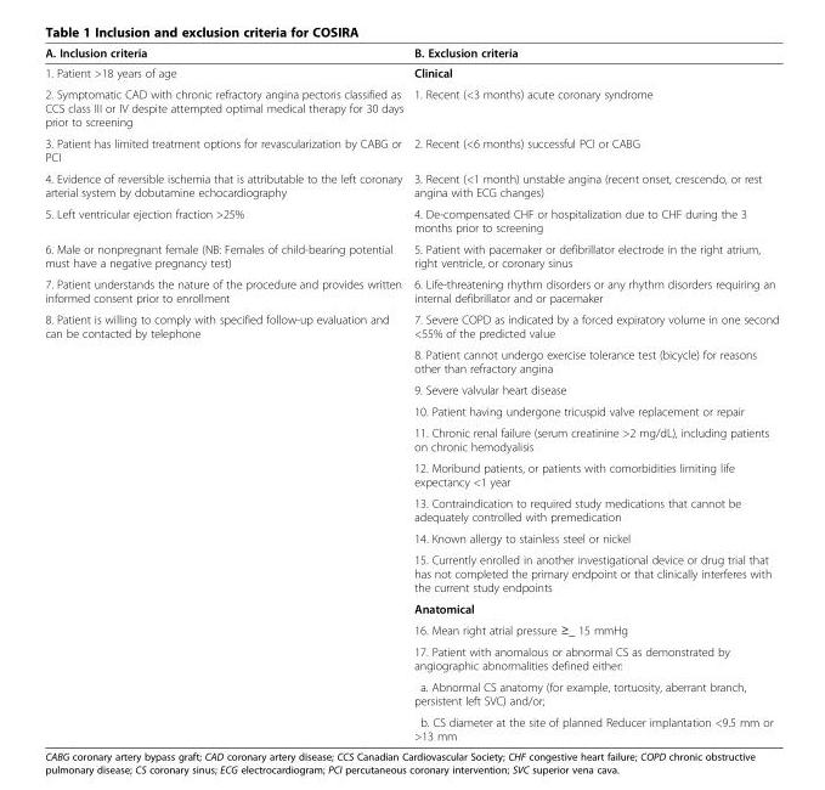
<table><thead><tr><td>A. Inclusion criteria</td><td>B. Exclusion criteria</td></tr></thead><tbody><tr><td>1. Patient &gt;18 years of age</td><td>Clinical</td></tr><tr><td>2. Symptomatic CAD with chronic refractory angina pectoris classified as CCS class III or IV despite attempted optimal medical therapy for 30 days prior to screening</td><td>1. Recent (&lt;3 months) acute coronary syndrome</td></tr><tr><td>3. Patient has limited treatment options for revascularization by CABG or PCI</td><td>2. Recent (&lt;6 months) successful PCI or CABG</td></tr><tr><td>4. Evidence of reversible ischemia that is attributable to the left coronary arterial system by dobutamine echocardiography</td><td>3. Recent (&lt;1 month) unstable angina (recent onset, crescendo, or rest angina with ECG changes)</td></tr><tr><td>5. Left ventricular ejection fraction &gt;25%</td><td>4. De-compensated CHF or hospitalization due to CHF during the 3 months prior to screening</td></tr><tr><td>6. Male or nonpregnant female (NB: Females of child-bearing potential must have a negative pregnancy test)</td><td>5. Patient with pacemaker or defibrillator electrode in the right atrium, right ventricle, or coronary sinus</td></tr><tr><td>7. Patient understands the nature of the procedure and provides written informed consent prior to enrollment</td><td>6. Life-threatening rhythm disorders or any rhythm disorders requiring an internal defibrillator and or pacemaker</td></tr><tr><td rowspan="14">8. Patient is willing to comply with specified follow-up evaluation and can be contacted by telephone</td><td>7. Severe COPD as indicated by a forced expiratory volume in one second &lt;55% of the predicted value</td></tr><tr><td>8. Patient cannot undergo exercise tolerance test (bicycle) for reasons other than refractory angina</td></tr><tr><td>9. Severe valvular heart disease</td></tr><tr><td>10. Patient having undergone tricuspid valve replacement or repair</td></tr><tr><td>11. Chronic renal failure (serum creatinine &gt;2 mg/dL), including patients on chronic hemodyalisis</td></tr><tr><td>12. Moribund patients, or patients with comorbidities limiting life expectancy &lt;1 year</td></tr><tr><td>13. Contraindication to required study medications that cannot be adequately controlled with premedication</td></tr><tr><td>14. Known allergy to stainless steel or nickel</td></tr><tr><td>15. Currently enrolled in another investigational device or drug trial that has not completed the primary endpoint or that clinically interferes with the current study endpoints</td></tr><tr><td>Anatomical</td></tr><tr><td>16. Mean right atrial pressure ≥_ 15 mmHg</td></tr><tr><td>17. Patient with anomalous or abnormal CS as demonstrated by angiographic abnormalities defined either:</td></tr><tr><td>a. Abnormal CS anatomy (for example, tortuosity, aberrant branch, persistent left SVC) and/or;</td></tr><tr><td>b. CS diameter at the site of planned Reducer implantation &lt;9.5 mm or &gt;13 mm</td></tr></tbody></table>